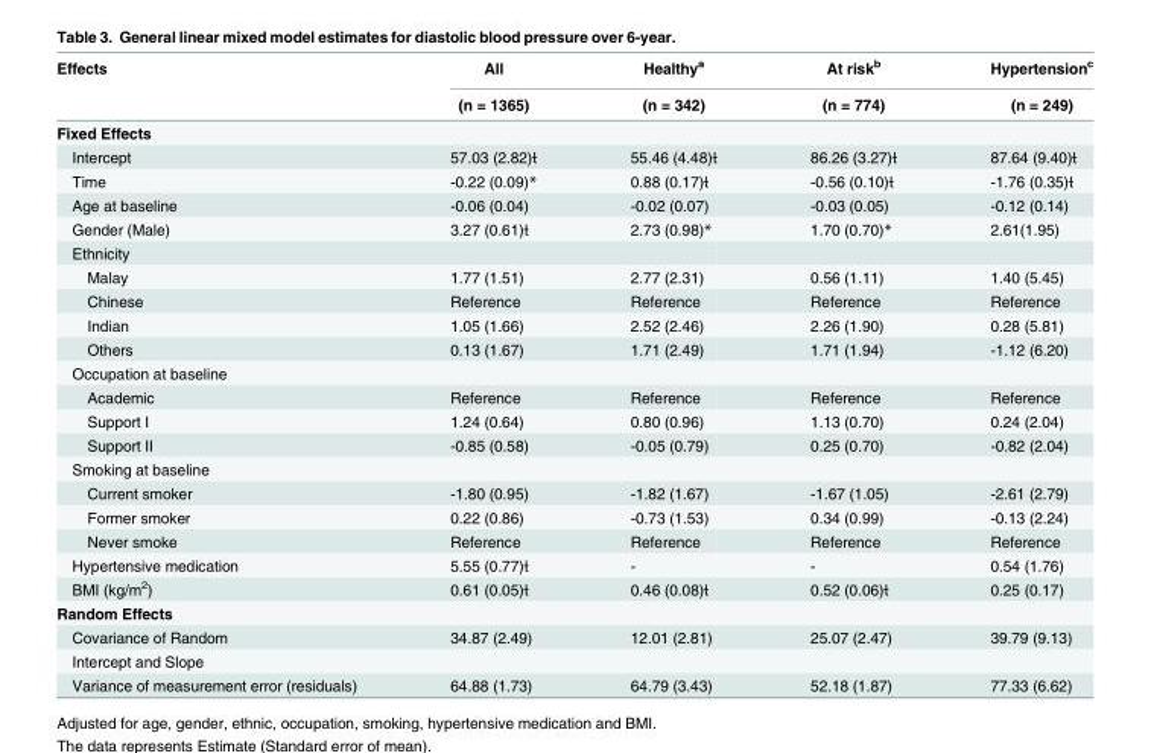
<table><thead><tr><td rowspan="2">Effects</td><td rowspan="2">All (n = 1365)</td><td rowspan="2">Healthy<sup>a</sup> (n = 342)</td><td rowspan="2">At risk<sup>b</sup> (n = 774)</td><td rowspan="2">Hypertension<sup>c</sup> (n = 249)</td></tr><tr></tr></thead><tbody><tr><td colspan="5">Fixed Effects</td></tr><tr><td>Intercept</td><td>57.03 (2.82)ƚ</td><td>55.46 (4.48)ƚ</td><td>86.26 (3.27)ƚ</td><td>87.64 (9.40)ƚ</td></tr><tr><td>Time</td><td>-0.22 (0.09)*</td><td>0.88 (0.17)ƚ</td><td>-0.56 (0.10)ƚ</td><td>-1.76 (0.35)ƚ</td></tr><tr><td>Age at baseline</td><td>-0.06 (0.04)</td><td>-0.02 (0.07)</td><td>-0.03 (0.05)</td><td>-0.12 (0.14)</td></tr><tr><td>Gender (Male)</td><td>3.27 (0.61)ƚ</td><td>2.73 (0.98)*</td><td>1.70 (0.70)*</td><td>2.61(1.95)</td></tr><tr><td colspan="5">Ethnicity</td></tr><tr><td>Malay</td><td>1.77 (1.51)</td><td>2.77 (2.31)</td><td>0.56 (1.11)</td><td>1.40 (5.45)</td></tr><tr><td>Chinese</td><td>Reference</td><td>Reference</td><td>Reference</td><td>Reference</td></tr><tr><td>Indian</td><td>1.05 (1.66)</td><td>2.52 (2.46)</td><td>2.26 (1.90)</td><td>0.28 (5.81)</td></tr><tr><td>Others</td><td>0.13 (1.67)</td><td>1.71 (2.49)</td><td>1.71 (1.94)</td><td>-1.12 (6.20)</td></tr><tr><td colspan="5">Occupation at baseline</td></tr><tr><td>Academic</td><td>Reference</td><td>Reference</td><td>Reference</td><td>Reference</td></tr><tr><td>Support I</td><td>1.24 (0.64)</td><td>0.80 (0.96)</td><td>1.13 (0.70)</td><td>0.24 (2.04)</td></tr><tr><td>Support II</td><td>-0.85 (0.58)</td><td>-0.05 (0.79)</td><td>0.25 (0.70)</td><td>-0.82 (2.04)</td></tr><tr><td colspan="5">Smoking at baseline</td></tr><tr><td>Current smoker</td><td>-1.80 (0.95)</td><td>-1.82 (1.67)</td><td>-1.67 (1.05)</td><td>-2.61 (2.79)</td></tr><tr><td>Former smoker</td><td>0.22 (0.86)</td><td>-0.73 (1.53)</td><td>0.34 (0.99)</td><td>-0.13 (2.24)</td></tr><tr><td>Never smoke</td><td>Reference</td><td>Reference</td><td>Reference</td><td>Reference</td></tr><tr><td>Hypertensive medication</td><td>5.55 (0.77)ƚ</td><td>-</td><td>-</td><td>0.54 (1.76)</td></tr><tr><td>BMI (kg/m<sup>2</sup>)</td><td>0.61 (0.05)ƚ</td><td>0.46 (0.08)ƚ</td><td>0.52 (0.06)ƚ</td><td>0.25 (0.17)</td></tr><tr><td colspan="5">Random Effects</td></tr><tr><td>Covariance of Random</td><td>34.87 (2.49)</td><td>12.01 (2.81)</td><td>25.07 (2.47)</td><td>39.79 (9.13)</td></tr><tr><td colspan="5">Intercept and Slope</td></tr><tr><td>Variance of measurement error (residuals)</td><td>64.88 (1.73)</td><td>64.79 (3.43)</td><td>52.18 (1.87)</td><td>77.33 (6.62)</td></tr></tbody></table>